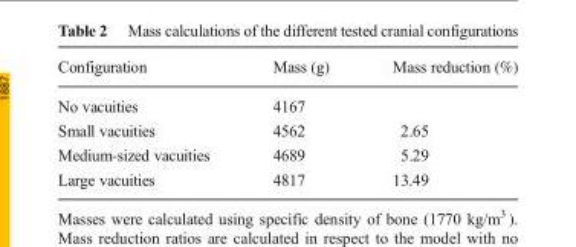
<table><thead><tr><td>Configuration</td><td>Mass (g)</td><td>Mass reduction (%)</td></tr></thead><tbody><tr><td>No vacuities</td><td>4167</td><td></td></tr><tr><td>Small vacuities</td><td>4562</td><td>2.65</td></tr><tr><td>Medium-sized vacuities</td><td>4689</td><td>5.29</td></tr><tr><td>Large vacuities</td><td>4817</td><td>13.49</td></tr></tbody></table>